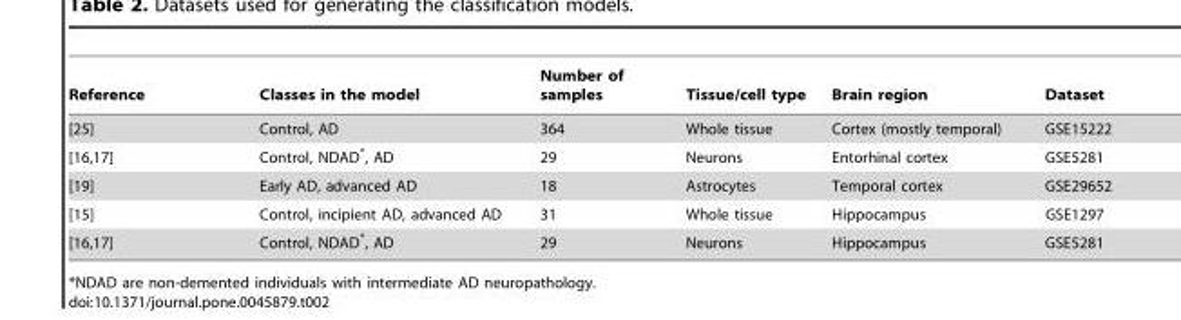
<table><thead><tr><td>Reference</td><td>Classes in the model</td><td>Number of samples</td><td>Tissue/cell type</td><td>Brain region</td><td>Dataset</td></tr></thead><tbody><tr><td>[25]</td><td>Control, AD</td><td>364</td><td>Whole tissue</td><td>Cortex (mostly temporal)</td><td>GSE15222</td></tr><tr><td>[16,17]</td><td>Control, NDAD*, AD</td><td>29</td><td>Neurons</td><td>Entorhinal cortex</td><td>GSE5281</td></tr><tr><td>[19]</td><td>Early AD, advanced AD</td><td>18</td><td>Astrocytes</td><td>Temporal cortex</td><td>GSE29652</td></tr><tr><td>[15]</td><td>Control, incipient AD, advanced AD</td><td>31</td><td>Whole tissue</td><td>Hippocampus</td><td>GSE1297</td></tr><tr><td>[16,17]</td><td>Control, NDAD*, AD</td><td>29</td><td>Neurons</td><td>Hippocampus</td><td>GSE5281</td></tr></tbody></table>